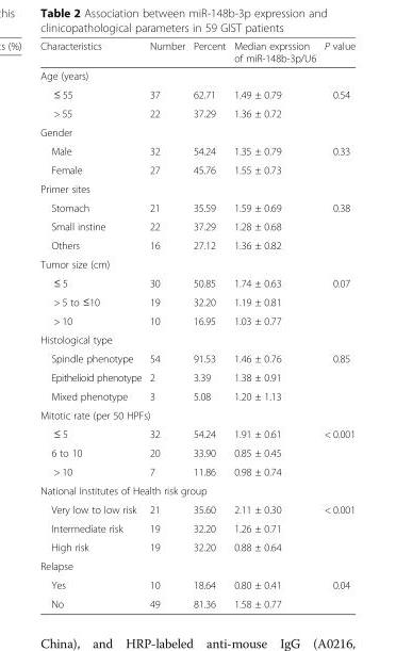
<table><thead><tr><td>Characteristics</td><td>Number</td><td>Percent</td><td>Median exprssion of miR-148b-3p/U6</td><td>P value</td></tr></thead><tbody><tr><td colspan="5">Age (years)</td></tr><tr><td>≤ 55</td><td>37</td><td>62.71</td><td>1.49 ± 0.79</td><td rowspan="2">0.54</td></tr><tr><td>&gt; 55</td><td>22</td><td>37.29</td><td>1.36 ± 0.72</td></tr><tr><td colspan="5">Gender</td></tr><tr><td>Male</td><td>32</td><td>54.24</td><td>1.35 ± 0.79</td><td rowspan="2">0.33</td></tr><tr><td>Female</td><td>27</td><td>45.76</td><td>1.55 ± 0.73</td></tr><tr><td colspan="5">Primer sites</td></tr><tr><td>Stomach</td><td>21</td><td>35.59</td><td>1.59 ± 0.69</td><td rowspan="2">0.38</td></tr><tr><td>Small instine</td><td>22</td><td>37.29</td><td>1.28 ± 0.68</td></tr><tr><td>Others</td><td>16</td><td>27.12</td><td>1.36 ± 0.82</td><td></td></tr><tr><td colspan="5">Tumor size (cm)</td></tr><tr><td>≤ 5</td><td>30</td><td>50.85</td><td>1.74 ± 0.63</td><td rowspan="3">0.07</td></tr><tr><td>&gt; 5 to ≤10</td><td>19</td><td>32.20</td><td>1.19 ± 0.81</td></tr><tr><td>&gt; 10</td><td>10</td><td>16.95</td><td>1.03 ± 0.77</td></tr><tr><td colspan="5">Histological type</td></tr><tr><td>Spindle phenotype</td><td>54</td><td>91.53</td><td>1.46 ± 0.76</td><td rowspan="3">0.85</td></tr><tr><td>Epithelioid phenotype</td><td>2</td><td>3.39</td><td>1.38 ± 0.91</td></tr><tr><td>Mixed phenotype</td><td>3</td><td>5.08</td><td>1.20 ± 1.13</td></tr><tr><td colspan="5">Mitotic rate (per 50 HPFs)</td></tr><tr><td>≤ 5</td><td>32</td><td>54.24</td><td>1.91 ± 0.61</td><td rowspan="3">&lt; 0.001</td></tr><tr><td>6 to 10</td><td>20</td><td>33.90</td><td>0.85 ± 0.45</td></tr><tr><td>&gt; 10</td><td>7</td><td>11.86</td><td>0.98 ± 0.74</td></tr><tr><td colspan="5">National Institutes of Health risk group</td></tr><tr><td>Very low to low risk</td><td>21</td><td>35.60</td><td>2.11 ± 0.30</td><td rowspan="3">&lt; 0.001</td></tr><tr><td>Intermediate risk</td><td>19</td><td>32.20</td><td>1.26 ± 0.71</td></tr><tr><td>High risk</td><td>19</td><td>32.20</td><td>0.88 ± 0.64</td></tr><tr><td colspan="5">Relapse</td></tr><tr><td>Yes</td><td>10</td><td>18.64</td><td>0.80 ± 0.41</td><td rowspan="2">0.04</td></tr><tr><td>No</td><td>49</td><td>81.36</td><td>1.58 ± 0.77</td></tr></tbody></table>